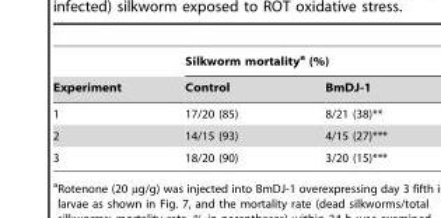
<table><thead><tr><td rowspan="2">Experiment</td><td colspan="2">Silkworm mortality<sup>a</sup> (%)</td></tr><tr><td>Control</td><td>BmDJ-1</td></tr></thead><tbody><tr><td>1</td><td>17/20 (85)</td><td>8/21 (38)**</td></tr><tr><td>2</td><td>14/15 (93)</td><td>4/15 (27)***</td></tr><tr><td>3</td><td>18/20 (90)</td><td>3/20 (15)***</td></tr></tbody></table>